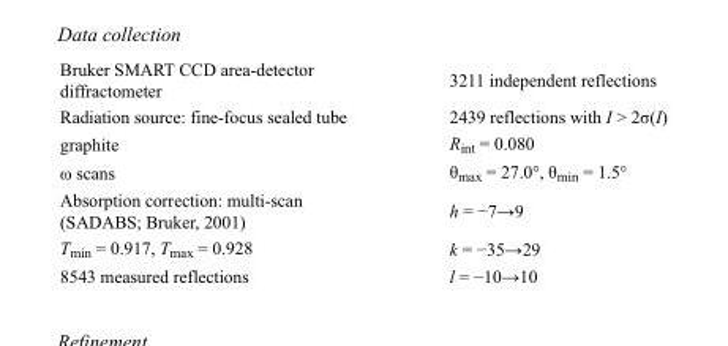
<table><tbody><tr><td>Bruker SMART CCD area-detector diffractometer</td><td>3211 independent reflections</td></tr><tr><td>Radiation source: fine-focus sealed tube</td><td>2439 reflections with I &gt; 2σ(I)</td></tr><tr><td>graphite</td><td>R<sub>int</sub> = 0.080</td></tr><tr><td>ω scans</td><td>θ<sub>max</sub> = 27.0°, θ<sub>min</sub> = 1.5°</td></tr><tr><td>Absorption correction: multi-scan (SADABS; Bruker, 2001)</td><td>h = −7→9</td></tr><tr><td>T<sub>min</sub> = 0.917, T<sub>max</sub> = 0.928</td><td>k = −35→29</td></tr><tr><td>8543 measured reflections</td><td>l = −10→10</td></tr></tbody></table>